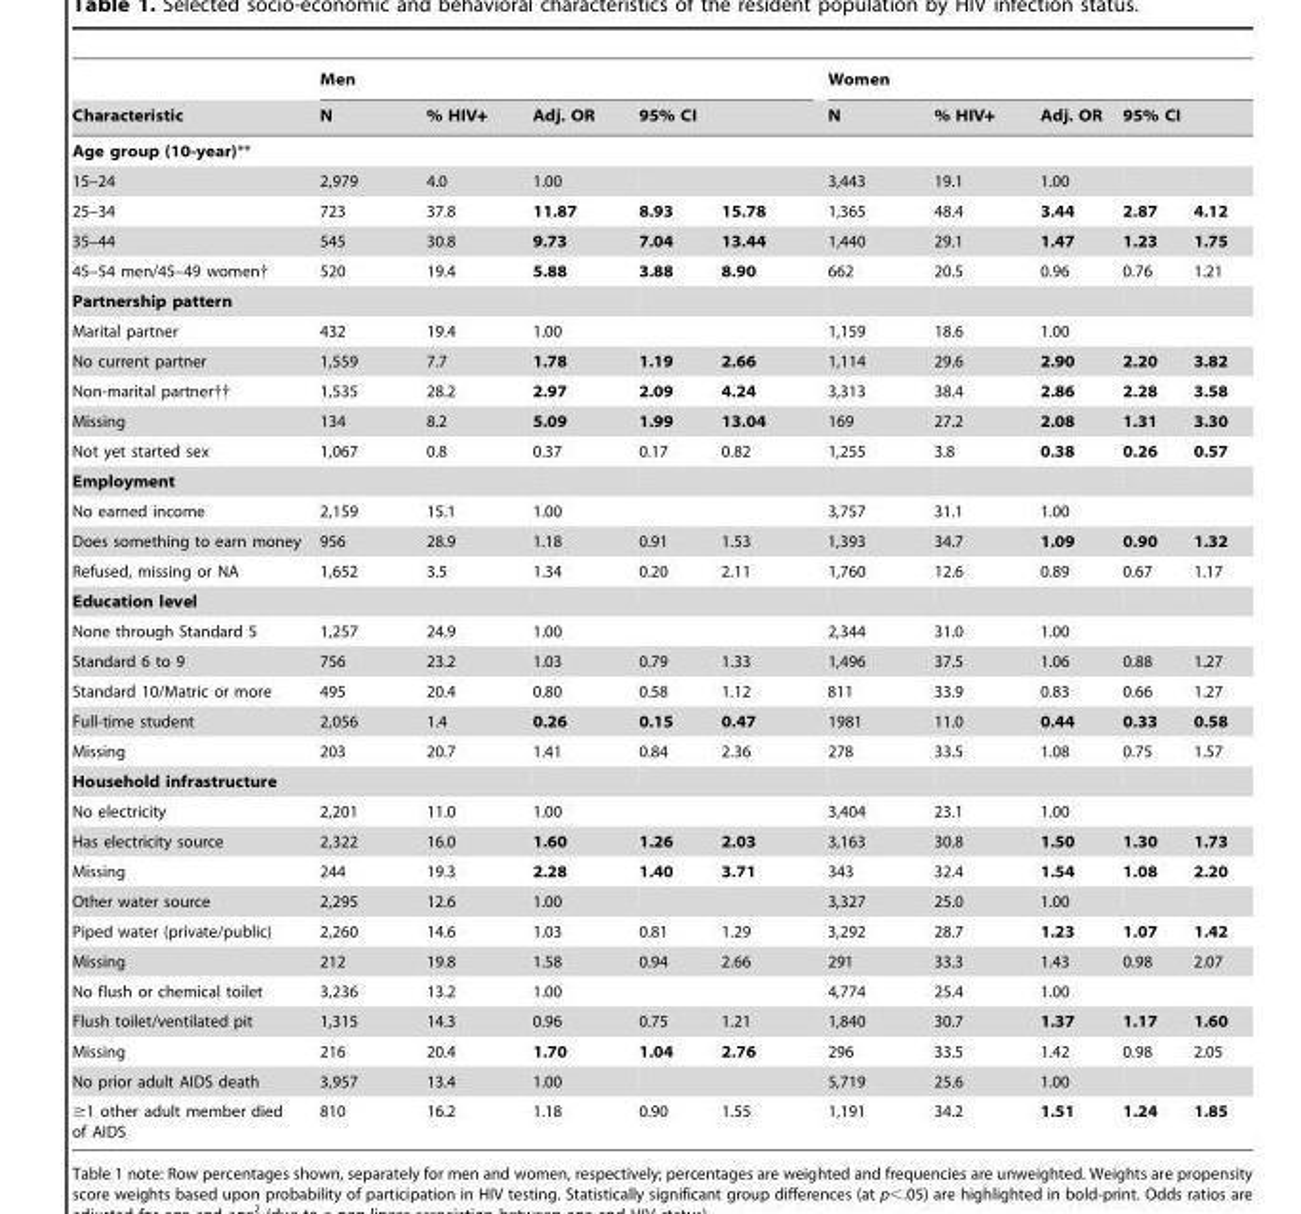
<table><thead><tr><td rowspan="3">Characteristic Age group (10-year)**</td><td colspan="5">Men</td><td colspan="5">Women</td></tr><tr><td rowspan="2">N</td><td rowspan="2">% HIV+</td><td rowspan="2">Adj. OR</td><td colspan="2">95% CI</td><td rowspan="2">N</td><td rowspan="2">% HIV+</td><td rowspan="2">Adj. OR</td><td colspan="2">95% CI</td></tr><tr><td></td><td></td><td></td><td></td></tr></thead><tbody><tr><td>15–24</td><td>2,979</td><td>4.0</td><td>1.00</td><td></td><td></td><td>3,443</td><td>19.1</td><td>1.00</td><td></td><td></td></tr><tr><td>25–34</td><td>723</td><td>37.8</td><td>11.87</td><td>8.93</td><td>15.78</td><td>1,365</td><td>48.4</td><td>3.44</td><td>2.87</td><td>4.12</td></tr><tr><td>35–44</td><td>545</td><td>30.8</td><td>9.73</td><td>7.04</td><td>13.44</td><td>1,440</td><td>29.1</td><td>1.47</td><td>1.23</td><td>1.75</td></tr><tr><td>45–54 men/45–49 women†</td><td>520</td><td>19.4</td><td>5.88</td><td>3.88</td><td>8.90</td><td>662</td><td>20.5</td><td>0.96</td><td>0.76</td><td>1.21</td></tr><tr><td colspan="11">Partnership pattern</td></tr><tr><td>Marital partner</td><td>432</td><td>19.4</td><td>1.00</td><td></td><td></td><td>1,159</td><td>18.6</td><td>1.00</td><td></td><td></td></tr><tr><td>No current partner</td><td>1,559</td><td>7.7</td><td>1.78</td><td>1.19</td><td>2.66</td><td>1,114</td><td>29.6</td><td>2.90</td><td>2.20</td><td>3.82</td></tr><tr><td>Non-marital partner††</td><td>1,535</td><td>28.2</td><td>2.97</td><td>2.09</td><td>4.24</td><td>3,313</td><td>38.4</td><td>2.86</td><td>2.28</td><td>3.58</td></tr><tr><td>Missing</td><td>134</td><td>8.2</td><td>5.09</td><td>1.99</td><td>13.04</td><td>169</td><td>27.2</td><td>2.08</td><td>1.31</td><td>3.30</td></tr><tr><td>Not yet started sex</td><td>1,067</td><td>0.8</td><td>0.37</td><td>0.17</td><td>0.82</td><td>1,255</td><td>3.8</td><td>0.38</td><td>0.26</td><td>0.57</td></tr><tr><td colspan="11">Employment</td></tr><tr><td>No earned income</td><td>2,159</td><td>15.1</td><td>1.00</td><td></td><td></td><td>3,757</td><td>31.1</td><td>1.00</td><td></td><td></td></tr><tr><td>Does something to earn money</td><td>956</td><td>28.9</td><td>1.18</td><td>0.91</td><td>1.53</td><td>1,393</td><td>34.7</td><td>1.09</td><td>0.90</td><td>1.32</td></tr><tr><td>Refused, missing or NA</td><td>1,652</td><td>3.5</td><td>1.34</td><td>0.20</td><td>2.11</td><td>1,760</td><td>12.6</td><td>0.89</td><td>0.67</td><td>1.17</td></tr><tr><td colspan="11">Education level</td></tr><tr><td>None through Standard 5</td><td>1,257</td><td>24.9</td><td>1.00</td><td></td><td></td><td>2,344</td><td>31.0</td><td>1.00</td><td></td><td></td></tr><tr><td>Standard 6 to 9</td><td>756</td><td>23.2</td><td>1.03</td><td>0.79</td><td>1.33</td><td>1,496</td><td>37.5</td><td>1.06</td><td>0.88</td><td>1.27</td></tr><tr><td>Standard 10/Matric or more</td><td>495</td><td>20.4</td><td>0.80</td><td>0.58</td><td>1.12</td><td>811</td><td>33.9</td><td>0.83</td><td>0.66</td><td>1.27</td></tr><tr><td>Full-time student</td><td>2,056</td><td>1.4</td><td>0.26</td><td>0.15</td><td>0.47</td><td>1981</td><td>11.0</td><td>0.44</td><td>0.33</td><td>0.58</td></tr><tr><td>Missing</td><td>203</td><td>20.7</td><td>1.41</td><td>0.84</td><td>2.36</td><td>278</td><td>33.5</td><td>1.08</td><td>0.75</td><td>1.57</td></tr><tr><td colspan="11">Household infrastructure</td></tr><tr><td>No electricity</td><td>2,201</td><td>11.0</td><td>1.00</td><td></td><td></td><td>3,404</td><td>23.1</td><td>1.00</td><td></td><td></td></tr><tr><td>Has electricity source</td><td>2,322</td><td>16.0</td><td>1.60</td><td>1.26</td><td>2.03</td><td>3,163</td><td>30.8</td><td>1.50</td><td>1.30</td><td>1.73</td></tr><tr><td>Missing</td><td>244</td><td>19.3</td><td>2.28</td><td>1.40</td><td>3.71</td><td>343</td><td>32.4</td><td>1.54</td><td>1.08</td><td>2.20</td></tr><tr><td>Other water source</td><td>2,295</td><td>12.6</td><td>1.00</td><td></td><td></td><td>3,327</td><td>25.0</td><td>1.00</td><td></td><td></td></tr><tr><td>Piped water (private/public)</td><td>2,260</td><td>14.6</td><td>1.03</td><td>0.81</td><td>1.29</td><td>3,292</td><td>28.7</td><td>1.23</td><td>1.07</td><td>1.42</td></tr><tr><td>Missing</td><td>212</td><td>19.8</td><td>1.58</td><td>0.94</td><td>2.66</td><td>291</td><td>33.3</td><td>1.43</td><td>0.98</td><td>2.07</td></tr><tr><td>No flush or chemical toilet</td><td>3,236</td><td>13.2</td><td>1.00</td><td></td><td></td><td>4,774</td><td>25.4</td><td>1.00</td><td></td><td></td></tr><tr><td>Flush toilet/ventilated pit</td><td>1,315</td><td>14.3</td><td>0.96</td><td>0.75</td><td>1.21</td><td>1,840</td><td>30.7</td><td>1.37</td><td>1.17</td><td>1.60</td></tr><tr><td>Missing</td><td>216</td><td>20.4</td><td>1.70</td><td>1.04</td><td>2.76</td><td>296</td><td>33.5</td><td>1.42</td><td>0.98</td><td>2.05</td></tr><tr><td>No prior adult AIDS death</td><td>3,957</td><td>13.4</td><td>1.00</td><td></td><td></td><td>5,719</td><td>25.6</td><td>1.00</td><td></td><td></td></tr><tr><td>≥1 other adult member died of AIDS</td><td>810</td><td>16.2</td><td>1.18</td><td>0.90</td><td>1.55</td><td>1,191</td><td>34.2</td><td>1.51</td><td>1.24</td><td>1.85</td></tr></tbody></table>